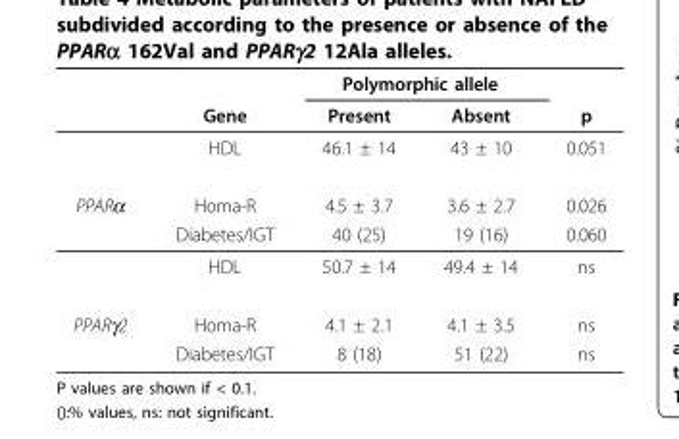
<table><thead><tr><td rowspan="2"></td><td rowspan="2">Gene</td><td colspan="2">Polymorphic allele</td><td rowspan="2">p</td></tr><tr><td>Present</td><td>Absent</td></tr></thead><tbody><tr><td></td><td>HDL</td><td>46.1 ± 14</td><td>43 ± 10</td><td>0.051</td></tr><tr><td rowspan="3">PPARα</td><td>Homa-R</td><td>4.5 ± 3.7</td><td>3.6 ± 2.7</td><td>0.026</td></tr><tr><td>Diabetes/IGT</td><td>40 (25)</td><td>19 (16)</td><td>0.060</td></tr><tr><td>HDL</td><td>50.7 ± 14</td><td>49.4 ± 14</td><td>ns</td></tr><tr><td rowspan="2">PPARγ2</td><td>Homa-R</td><td>4.1 ± 2.1</td><td>4.1 ± 3.5</td><td>ns</td></tr><tr><td>Diabetes/IGT</td><td>8 (18)</td><td>51 (22)</td><td>ns</td></tr></tbody></table>